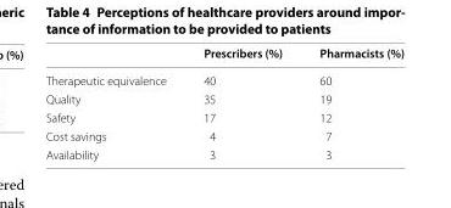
<table><thead><tr><td></td><td>Prescribers (%)</td><td>Pharmacists (%)</td></tr></thead><tbody><tr><td>Therapeutic equivalence</td><td>40</td><td>60</td></tr><tr><td>Quality</td><td>35</td><td>19</td></tr><tr><td>Safety</td><td>17</td><td>12</td></tr><tr><td>Cost savings</td><td>4</td><td>7</td></tr><tr><td>Availability</td><td>3</td><td>3</td></tr></tbody></table>